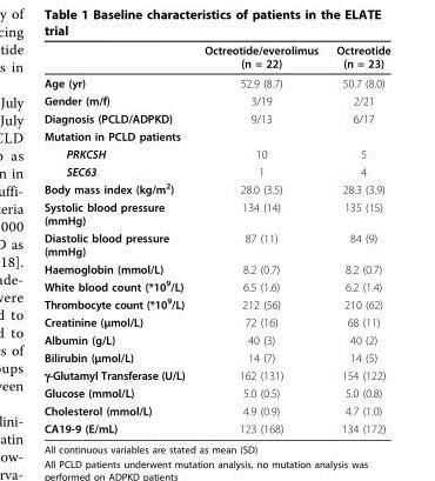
<table><thead><tr><td></td><td>Octreotide/everolimus (n = 22)</td><td>Octreotide (n = 23)</td></tr></thead><tbody><tr><td>Age (yr)</td><td>52.9 (8.7)</td><td>50.7 (8.0)</td></tr><tr><td>Gender (m/f)</td><td>3/19</td><td>2/21</td></tr><tr><td>Diagnosis (PCLD/ADPKD)</td><td>9/13</td><td>6/17</td></tr><tr><td colspan="3">Mutation in PCLD patients</td></tr><tr><td>PRKCSH</td><td>10</td><td>5</td></tr><tr><td>SEC63</td><td>1</td><td>4</td></tr><tr><td>Body mass index (kg/m<sup>2</sup>)</td><td>28.0 (3.5)</td><td>28.3 (3.9)</td></tr><tr><td>Systolic blood pressure (mmHg)</td><td>134 (14)</td><td>135 (15)</td></tr><tr><td>Diastolic blood pressure (mmHg)</td><td>87 (11)</td><td>84 (9)</td></tr><tr><td>Haemoglobin (mmol/L)</td><td>8.2 (0.7)</td><td>8.2 (0.7)</td></tr><tr><td>White blood count (*10<sup>9</sup>/L)</td><td>6.5 (1.6)</td><td>6.2 (1.4)</td></tr><tr><td>Thrombocyte count (*10<sup>9</sup>/L)</td><td>212 (56)</td><td>210 (62)</td></tr><tr><td>Creatinine (μmol/L)</td><td>72 (16)</td><td>68 (11)</td></tr><tr><td>Albumin (g/L)</td><td>40 (3)</td><td>40 (2)</td></tr><tr><td>Bilirubin (μmol/L)</td><td>14 (7)</td><td>14 (5)</td></tr><tr><td>γ-Glutamyl Transferase (U/L)</td><td>162 (131)</td><td>154 (122)</td></tr><tr><td>Glucose (mmol/L)</td><td>5.0 (0.5)</td><td>5.0 (0.8)</td></tr><tr><td>Cholesterol (mmol/L)</td><td>4.9 (0.9)</td><td>4.7 (1.0)</td></tr><tr><td>CA19-9 (E/mL)</td><td>123 (168)</td><td>134 (172)</td></tr></tbody></table>